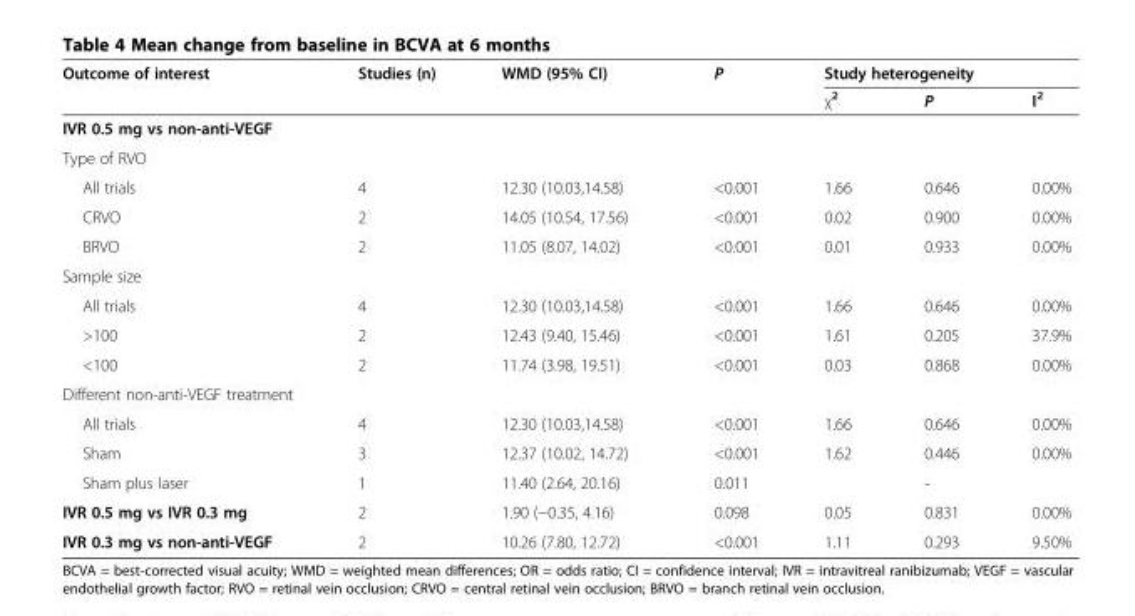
<table><thead><tr><td rowspan="2">Outcome of interest</td><td rowspan="2">Studies (n)</td><td rowspan="2">WMD (95% CI)</td><td rowspan="2">P</td><td colspan="3">Study heterogeneity</td></tr><tr><td>χ<sup>2</sup></td><td>P</td><td>I<sup>2</sup></td></tr></thead><tbody><tr><td colspan="7">IVR 0.5 mg vs non-anti-VEGF</td></tr><tr><td colspan="7">Type of RVO</td></tr><tr><td>All trials</td><td>4</td><td>12.30 (10.03,14.58)</td><td>&lt;0.001</td><td>1.66</td><td>0.646</td><td>0.00%</td></tr><tr><td>CRVO</td><td>2</td><td>14.05 (10.54, 17.56)</td><td>&lt;0.001</td><td>0.02</td><td>0.900</td><td>0.00%</td></tr><tr><td>BRVO</td><td>2</td><td>11.05 (8.07, 14.02)</td><td>&lt;0.001</td><td>0.01</td><td>0.933</td><td>0.00%</td></tr><tr><td colspan="7">Sample size</td></tr><tr><td>All trials</td><td>4</td><td>12.30 (10.03,14.58)</td><td>&lt;0.001</td><td>1.66</td><td>0.646</td><td>0.00%</td></tr><tr><td>&gt;100</td><td>2</td><td>12.43 (9.40, 15.46)</td><td>&lt;0.001</td><td>1.61</td><td>0.205</td><td>37.9%</td></tr><tr><td>&lt;100</td><td>2</td><td>11.74 (3.98, 19.51)</td><td>&lt;0.001</td><td>0.03</td><td>0.868</td><td>0.00%</td></tr><tr><td colspan="7">Different non-anti-VEGF treatment</td></tr><tr><td>All trials</td><td>4</td><td>12.30 (10.03,14.58)</td><td>&lt;0.001</td><td>1.66</td><td>0.646</td><td>0.00%</td></tr><tr><td>Sham</td><td>3</td><td>12.37 (10.02, 14.72)</td><td>&lt;0.001</td><td>1.62</td><td>0.446</td><td>0.00%</td></tr><tr><td>Sham plus laser</td><td>1</td><td>11.40 (2.64, 20.16)</td><td>0.011</td><td></td><td>-</td><td></td></tr><tr><td>IVR 0.5 mg vs IVR 0.3 mg</td><td>2</td><td>1.90 (−0.35, 4.16)</td><td>0.098</td><td>0.05</td><td>0.831</td><td>0.00%</td></tr><tr><td>IVR 0.3 mg vs non-anti-VEGF</td><td>2</td><td>10.26 (7.80, 12.72)</td><td>&lt;0.001</td><td>1.11</td><td>0.293</td><td>9.50%</td></tr></tbody></table>